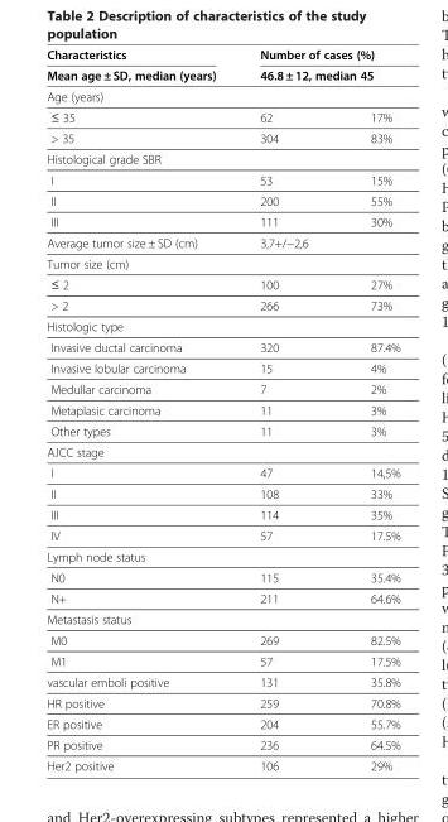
<table><thead><tr><td rowspan="2">Characteristics Mean age ± SD, median (years)</td><td rowspan="2" colspan="2">Number of cases (%) 46.8 ± 12, median 45</td></tr><tr></tr><tr><td colspan="3">Age (years)</td></tr><tr><td>≤ 35</td><td>62</td><td>17%</td></tr></thead><tbody><tr><td>&gt; 35</td><td>304</td><td>83%</td></tr><tr><td colspan="3">Histological grade SBR</td></tr><tr><td>I</td><td>53</td><td>15%</td></tr><tr><td>II</td><td>200</td><td>55%</td></tr><tr><td>III</td><td>111</td><td>30%</td></tr><tr><td>Average tumor size ± SD (cm)</td><td>3,7+/−2,6</td><td></td></tr><tr><td colspan="3">Tumor size (cm)</td></tr><tr><td>≤ 2</td><td>100</td><td>27%</td></tr><tr><td>&gt; 2</td><td>266</td><td>73%</td></tr><tr><td colspan="3">Histologic type</td></tr><tr><td>Invasive ductal carcinoma</td><td>320</td><td>87.4%</td></tr><tr><td>Invasive lobular carcinoma</td><td>15</td><td>4%</td></tr><tr><td>Medullar carcinoma</td><td>7</td><td>2%</td></tr><tr><td>Metaplasic carcinoma</td><td>11</td><td>3%</td></tr><tr><td>Other types</td><td>11</td><td>3%</td></tr><tr><td colspan="3">AJCC stage</td></tr><tr><td>I</td><td>47</td><td>14,5%</td></tr><tr><td>II</td><td>108</td><td>33%</td></tr><tr><td>III</td><td>114</td><td>35%</td></tr><tr><td>IV</td><td>57</td><td>17.5%</td></tr><tr><td colspan="3">Lymph node status</td></tr><tr><td>N0</td><td>115</td><td>35.4%</td></tr><tr><td>N+</td><td>211</td><td>64.6%</td></tr><tr><td colspan="3">Metastasis status</td></tr><tr><td>M0</td><td>269</td><td>82.5%</td></tr><tr><td>M1</td><td>57</td><td>17.5%</td></tr><tr><td>vascular emboli positive</td><td>131</td><td>35.8%</td></tr><tr><td>HR positive</td><td>259</td><td>70.8%</td></tr><tr><td>ER positive</td><td>204</td><td>55.7%</td></tr><tr><td>PR positive</td><td>236</td><td>64.5%</td></tr><tr><td>Her2 positive</td><td>106</td><td>29%</td></tr></tbody></table>